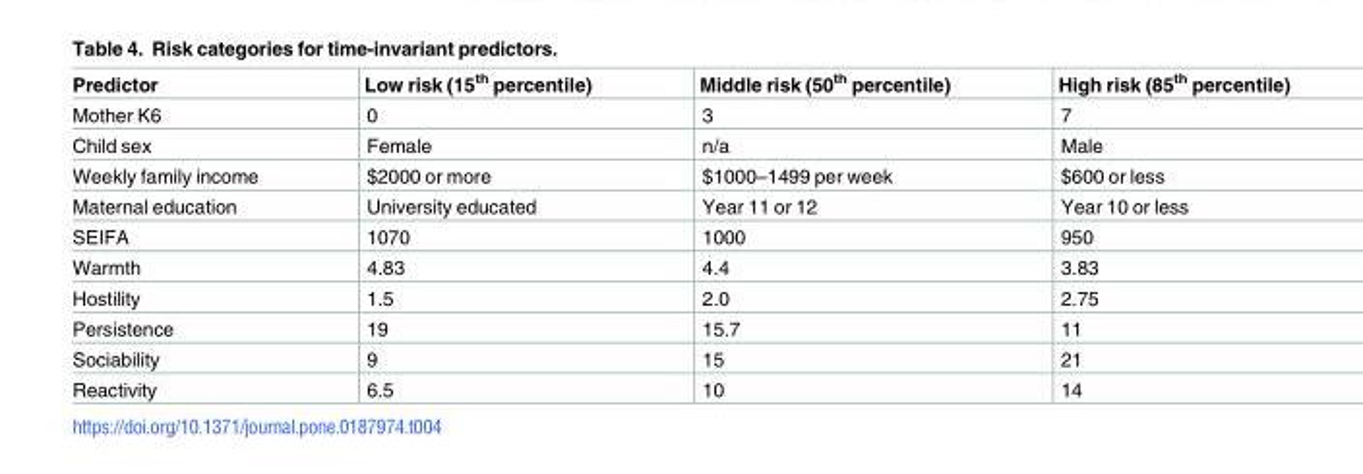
<table><thead><tr><td>Predictor</td><td>Low risk (15<sup>th</sup> percentile)</td><td>Middle risk (50<sup>th</sup> percentile)</td><td>High risk (85<sup>th</sup> percentile)</td></tr></thead><tbody><tr><td>Mother K6</td><td>0</td><td>3</td><td>7</td></tr><tr><td>Child sex</td><td>Female</td><td>n/a</td><td>Male</td></tr><tr><td>Weekly family income</td><td>$2000 or more</td><td>$1000–1499 per week</td><td>$600 or less</td></tr><tr><td>Maternal education</td><td>University educated</td><td>Year 11 or 12</td><td>Year 10 or less</td></tr><tr><td>SEIFA</td><td>1070</td><td>1000</td><td>950</td></tr><tr><td>Warmth</td><td>4.83</td><td>4.4</td><td>3.83</td></tr><tr><td>Hostility</td><td>1.5</td><td>2.0</td><td>2.75</td></tr><tr><td>Persistence</td><td>19</td><td>15.7</td><td>11</td></tr><tr><td>Sociability</td><td>9</td><td>15</td><td>21</td></tr><tr><td>Reactivity</td><td>6.5</td><td>10</td><td>14</td></tr></tbody></table>